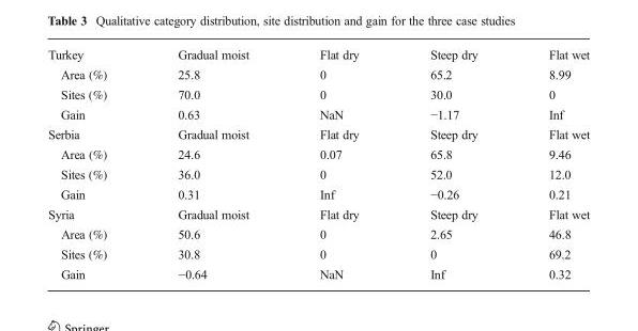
<table><tbody><tr><td>Turkey</td><td>Gradual moist</td><td>Flat dry</td><td>Steep dry</td><td>Flat wet</td></tr><tr><td>Area (%)</td><td>25.8</td><td>0</td><td>65.2</td><td>8.99</td></tr><tr><td>Sites (%)</td><td>70.0</td><td>0</td><td>30.0</td><td>0</td></tr><tr><td>Gain</td><td>0.63</td><td>NaN</td><td>−1.17</td><td>Inf</td></tr><tr><td>Serbia</td><td>Gradual moist</td><td>Flat dry</td><td>Steep dry</td><td>Flat wet</td></tr><tr><td>Area (%)</td><td>24.6</td><td>0.07</td><td>65.8</td><td>9.46</td></tr><tr><td>Sites (%)</td><td>36.0</td><td>0</td><td>52.0</td><td>12.0</td></tr><tr><td>Gain</td><td>0.31</td><td>Inf</td><td>−0.26</td><td>0.21</td></tr><tr><td>Syria</td><td>Gradual moist</td><td>Flat dry</td><td>Steep dry</td><td>Flat wet</td></tr><tr><td>Area (%)</td><td>50.6</td><td>0</td><td>2.65</td><td>46.8</td></tr><tr><td>Sites (%)</td><td>30.8</td><td>0</td><td>0</td><td>69.2</td></tr><tr><td>Gain</td><td>−0.64</td><td>NaN</td><td>Inf</td><td>0.32</td></tr></tbody></table>